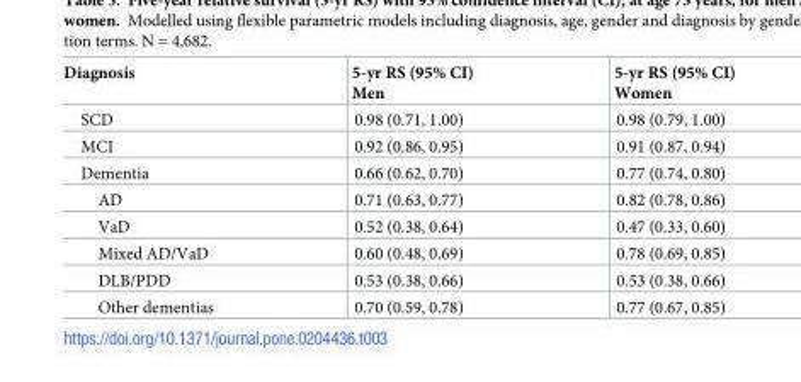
<table><thead><tr><td>Diagnosis</td><td>5-yr RS (95% CI) Men</td><td>5-yr RS (95% CI) Women</td></tr></thead><tbody><tr><td>SCD</td><td>0.98 (0.71, 1.00)</td><td>0.98 (0.79, 1.00)</td></tr><tr><td>MCI</td><td>0.92 (0.86, 0.95)</td><td>0.91 (0.87, 0.94)</td></tr><tr><td>Dementia</td><td>0.66 (0.62, 0.70)</td><td>0.77 (0.74, 0.80)</td></tr><tr><td>AD</td><td>0.71 (0.63, 0.77)</td><td>0.82 (0.78, 0.86)</td></tr><tr><td>VaD</td><td>0.52 (0.38, 0.64)</td><td>0.47 (0.33, 0.60)</td></tr><tr><td>Mixed AD/VaD</td><td>0.60 (0.48, 0.69)</td><td>0.78 (0.69, 0.85)</td></tr><tr><td>DLB/PDD</td><td>0.53 (0.38, 0.66)</td><td>0.53 (0.38, 0.66)</td></tr><tr><td>Other dementias</td><td>0.70 (0.59, 0.78)</td><td>0.77 (0.67, 0.85)</td></tr></tbody></table>